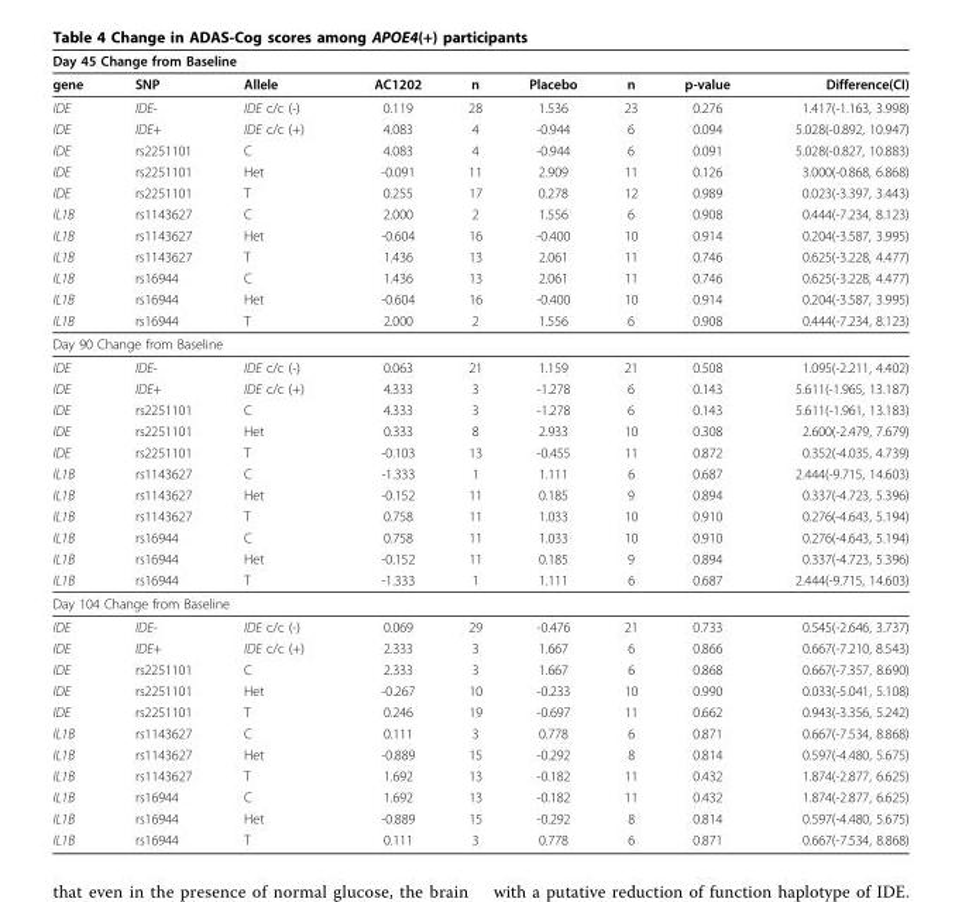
<table><thead><tr><td colspan="3">Day 45 Change from Baseline</td><td rowspan="2">AC1202</td><td rowspan="2">n</td><td rowspan="2">Placebo</td><td rowspan="2">n</td><td rowspan="2">p-value</td><td rowspan="2">Difference(CI)</td></tr><tr><td>gene</td><td>SNP</td><td>Allele</td></tr></thead><tbody><tr><td>IDE</td><td>IDE-</td><td>IDE c/c (-)</td><td>0.119</td><td>28</td><td>1.536</td><td>23</td><td>0.276</td><td>1.417(-1.163, 3.998)</td></tr><tr><td>IDE</td><td>IDE+</td><td>IDE c/c (+)</td><td>4.083</td><td>4</td><td>-0.944</td><td>6</td><td>0.094</td><td>5.028(-0.892, 10.947)</td></tr><tr><td>IDE</td><td>rs2251101</td><td>C</td><td>4.083</td><td>4</td><td>-0.944</td><td>6</td><td>0.091</td><td>5.028(-0.827, 10.883)</td></tr><tr><td>IDE</td><td>rs2251101</td><td>Het</td><td>-0.091</td><td>11</td><td>2.909</td><td>11</td><td>0.126</td><td>3.000(-0.868, 6.868)</td></tr><tr><td>IDE</td><td>rs2251101</td><td>T</td><td>0.255</td><td>17</td><td>0.278</td><td>12</td><td>0.989</td><td>0.023(-3.397, 3.443)</td></tr><tr><td>IL1B</td><td>rs1143627</td><td>C</td><td>2.000</td><td>2</td><td>1.556</td><td>6</td><td>0.908</td><td>0.444(-7.234, 8.123)</td></tr><tr><td>IL1B</td><td>rs1143627</td><td>Het</td><td>-0.604</td><td>16</td><td>-0.400</td><td>10</td><td>0.914</td><td>0.204(-3.587, 3.995)</td></tr><tr><td>IL1B</td><td>rs1143627</td><td>T</td><td>1.436</td><td>13</td><td>2.061</td><td>11</td><td>0.746</td><td>0.625(-3.228, 4.477)</td></tr><tr><td>IL1B</td><td>rs16944</td><td>C</td><td>1.436</td><td>13</td><td>2.061</td><td>11</td><td>0.746</td><td>0.625(-3.228, 4.477)</td></tr><tr><td>IL1B</td><td>rs16944</td><td>Het</td><td>-0.604</td><td>16</td><td>-0.400</td><td>10</td><td>0.914</td><td>0.204(-3.587, 3.995)</td></tr><tr><td>IL1B</td><td>rs16944</td><td>T</td><td>2.000</td><td>2</td><td>1.556</td><td>6</td><td>0.908</td><td>0.444(-7.234, 8.123)</td></tr><tr><td colspan="9">Day 90 Change from Baseline</td></tr><tr><td>IDE</td><td>IDE-</td><td>IDE c/c (-)</td><td>0.063</td><td>21</td><td>1.159</td><td>21</td><td>0.508</td><td>1.095(-2.211, 4.402)</td></tr><tr><td>IDE</td><td>IDE+</td><td>IDE c/c (+)</td><td>4.333</td><td>3</td><td>-1.278</td><td>6</td><td>0.143</td><td>5.611(-1.965, 13.187)</td></tr><tr><td>IDE</td><td>rs2251101</td><td>C</td><td>4.333</td><td>3</td><td>-1.278</td><td>6</td><td>0.143</td><td>5.611(-1.961, 13.183)</td></tr><tr><td>IDE</td><td>rs2251101</td><td>Het</td><td>0.333</td><td>8</td><td>2.933</td><td>10</td><td>0.308</td><td>2.600(-2.479, 7.679)</td></tr><tr><td>IDE</td><td>rs2251101</td><td>T</td><td>-0.103</td><td>13</td><td>-0.455</td><td>11</td><td>0.872</td><td>0.352(-4.035, 4.739)</td></tr><tr><td>IL1B</td><td>rs1143627</td><td>C</td><td>-1.333</td><td>1</td><td>1.111</td><td>6</td><td>0.687</td><td>2.444(-9.715, 14.603)</td></tr><tr><td>IL1B</td><td>rs1143627</td><td>Het</td><td>-0.152</td><td>11</td><td>0.185</td><td>9</td><td>0.894</td><td>0.337(-4.723, 5.396)</td></tr><tr><td>IL1B</td><td>rs1143627</td><td>T</td><td>0.758</td><td>11</td><td>1.033</td><td>10</td><td>0.910</td><td>0.276(-4.643, 5.194)</td></tr><tr><td>IL1B</td><td>rs16944</td><td>C</td><td>0.758</td><td>11</td><td>1.033</td><td>10</td><td>0.910</td><td>0.276(-4.643, 5.194)</td></tr><tr><td>IL1B</td><td>rs16944</td><td>Het</td><td>-0.152</td><td>11</td><td>0.185</td><td>9</td><td>0.894</td><td>0.337(-4.723, 5.396)</td></tr><tr><td>IL1B</td><td>rs16944</td><td>T</td><td>-1.333</td><td>1</td><td>1.111</td><td>6</td><td>0.687</td><td>2.444(-9.715, 14.603)</td></tr><tr><td colspan="9">Day 104 Change from Baseline</td></tr><tr><td>IDE</td><td>IDE-</td><td>IDE c/c (-)</td><td>0.069</td><td>29</td><td>-0.476</td><td>21</td><td>0.733</td><td>0.545(-2.646, 3.737)</td></tr><tr><td>IDE</td><td>IDE+</td><td>IDE c/c (+)</td><td>2.333</td><td>3</td><td>1.667</td><td>6</td><td>0.866</td><td>0.667(-7.210, 8.543)</td></tr><tr><td>IDE</td><td>rs2251101</td><td>C</td><td>2.333</td><td>3</td><td>1.667</td><td>6</td><td>0.868</td><td>0.667(-7.357, 8.690)</td></tr><tr><td>IDE</td><td>rs2251101</td><td>Het</td><td>-0.267</td><td>10</td><td>-0.233</td><td>10</td><td>0.990</td><td>0.033(-5.041, 5.108)</td></tr><tr><td>IDE</td><td>rs2251101</td><td>T</td><td>0.246</td><td>19</td><td>-0.697</td><td>11</td><td>0.662</td><td>0.943(-3.356, 5.242)</td></tr><tr><td>IL1B</td><td>rs1143627</td><td>C</td><td>0.111</td><td>3</td><td>0.778</td><td>6</td><td>0.871</td><td>0.667(-7.534, 8.868)</td></tr><tr><td>IL1B</td><td>rs1143627</td><td>Het</td><td>-0.889</td><td>15</td><td>-0.292</td><td>8</td><td>0.814</td><td>0.597(-4.480, 5.675)</td></tr><tr><td>IL1B</td><td>rs1143627</td><td>T</td><td>1.692</td><td>13</td><td>-0.182</td><td>11</td><td>0.432</td><td>1.874(-2.877, 6.625)</td></tr><tr><td>IL1B</td><td>rs16944</td><td>C</td><td>1.692</td><td>13</td><td>-0.182</td><td>11</td><td>0.432</td><td>1.874(-2.877, 6.625)</td></tr><tr><td>IL1B</td><td>rs16944</td><td>Het</td><td>-0.889</td><td>15</td><td>-0.292</td><td>8</td><td>0.814</td><td>0.597(-4.480, 5.675)</td></tr><tr><td>IL1B</td><td>rs16944</td><td>T</td><td>0.111</td><td>3</td><td>0.778</td><td>6</td><td>0.871</td><td>0.667(-7.534, 8.868)</td></tr></tbody></table>